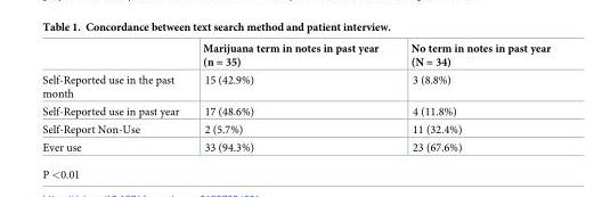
<table><thead><tr><td></td><td>Marijuana term in notes in past year (n = 35)</td><td>No term in notes in past year (N = 34)</td></tr></thead><tbody><tr><td>Self-Reported use in the past month</td><td>15 (42.9%)</td><td>3 (8.8%)</td></tr><tr><td>Self-Reported use in past year</td><td>17 (48.6%)</td><td>4 (11.8%)</td></tr><tr><td>Self-Report Non-Use</td><td>2 (5.7%)</td><td>11 (32.4%)</td></tr><tr><td>Ever use</td><td>33 (94.3%)</td><td>23 (67.6%)</td></tr></tbody></table>